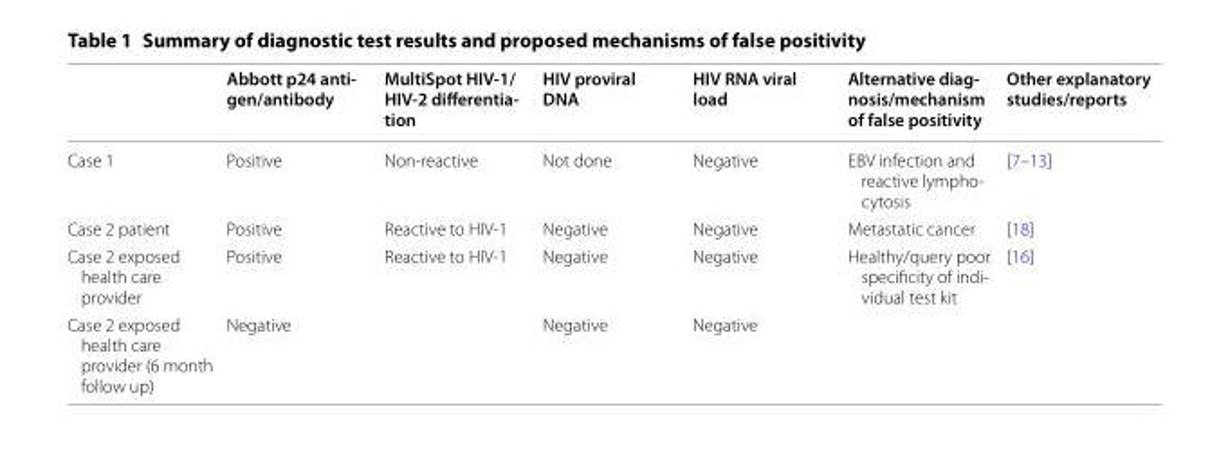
<table><thead><tr><td></td><td>Abbott p24 anti- gen/antibody</td><td>MultiSpot HIV-1/ HIV-2 differentia- tion</td><td>HIV proviral DNA</td><td>HIV RNA viral load</td><td>Alternative diag- nosis/mechanism of false positivity</td><td>Other explanatory studies/reports</td></tr></thead><tbody><tr><td>Case 1</td><td>Positive</td><td>Non-reactive</td><td>Not done</td><td>Negative</td><td>EBV infection and reactive lympho- cytosis</td><td>[7–13]</td></tr><tr><td>Case 2 patient</td><td>Positive</td><td>Reactive to HIV-1</td><td>Negative</td><td>Negative</td><td>Metastatic cancer</td><td>[18]</td></tr><tr><td>Case 2 exposed health care provider</td><td>Positive</td><td>Reactive to HIV-1</td><td>Negative</td><td>Negative</td><td>Healthy/query poor specificity of indi- vidual test kit</td><td>[16]</td></tr><tr><td>Case 2 exposed health care provider (6 month follow up)</td><td>Negative</td><td></td><td>Negative</td><td>Negative</td><td></td><td></td></tr></tbody></table>